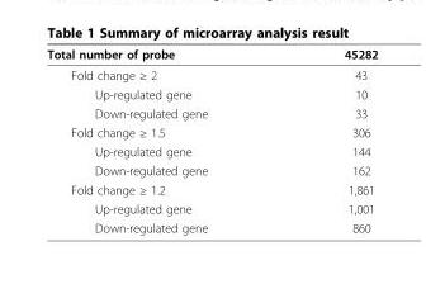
<table><thead><tr><td>Total number of probe</td><td>45282</td></tr></thead><tbody><tr><td>Fold change ≥ 2</td><td>43</td></tr><tr><td>Up-regulated gene</td><td>10</td></tr><tr><td>Down-regulated gene</td><td>33</td></tr><tr><td>Fold change ≥ 1.5</td><td>306</td></tr><tr><td>Up-regulated gene</td><td>144</td></tr><tr><td>Down-regulated gene</td><td>162</td></tr><tr><td>Fold change ≥ 1.2</td><td>1,861</td></tr><tr><td>Up-regulated gene</td><td>1,001</td></tr><tr><td>Down-regulated gene</td><td>860</td></tr></tbody></table>